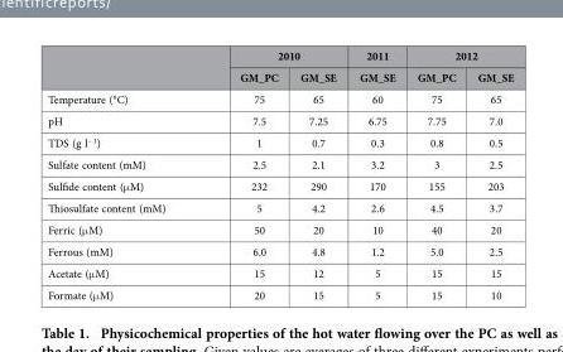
<table><thead><tr><td rowspan="2"></td><td colspan="2">2010</td><td rowspan="2">2011 GM_SE</td><td colspan="2">2012</td></tr><tr><td>GM_PC</td><td>GM_SE</td><td>GM_PC</td><td>GM_SE</td></tr></thead><tbody><tr><td>Temperature (°C)</td><td>75</td><td>65</td><td>60</td><td>75</td><td>65</td></tr><tr><td>pH</td><td>7.5</td><td>7.25</td><td>6.75</td><td>7.75</td><td>7.0</td></tr><tr><td>TDS (g l<sup>−1</sup>)</td><td>1</td><td>0.7</td><td>0.3</td><td>0.8</td><td>0.5</td></tr><tr><td>Sulfate content (mM)</td><td>2.5</td><td>2.1</td><td>3.2</td><td>3</td><td>2.5</td></tr><tr><td>Sulfide content (μ M)</td><td>232</td><td>290</td><td>170</td><td>155</td><td>203</td></tr><tr><td>Thiosulfate content (mM)</td><td>5</td><td>4.2</td><td>2.6</td><td>4.5</td><td>3.7</td></tr><tr><td>Ferric (μ M)</td><td>50</td><td>20</td><td>10</td><td>40</td><td>20</td></tr><tr><td>Ferrous (mM)</td><td>6.0</td><td>4.8</td><td>1.2</td><td>5.0</td><td>2.5</td></tr><tr><td>Acetate (μ M)</td><td>15</td><td>12</td><td>5</td><td>15</td><td>15</td></tr><tr><td>Formate (μ M)</td><td>20</td><td>15</td><td>5</td><td>15</td><td>10</td></tr></tbody></table>